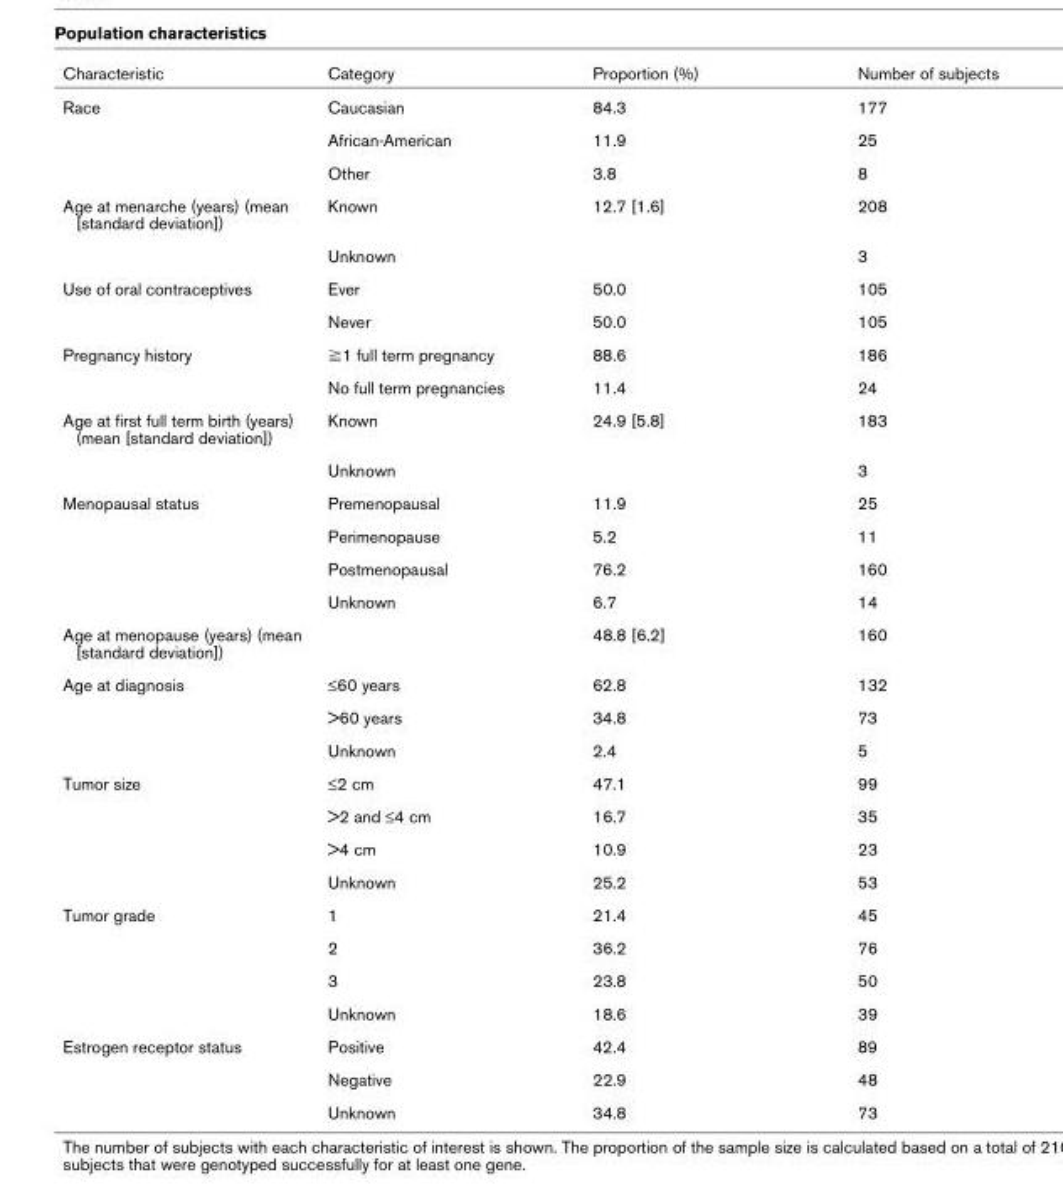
<table><thead><tr><td>Characteristic</td><td>Category</td><td>Proportion (%)</td><td>Number of subjects</td></tr></thead><tbody><tr><td rowspan="3">Race</td><td>Caucasian</td><td>84.3</td><td>177</td></tr><tr><td>African-American</td><td>11.9</td><td>25</td></tr><tr><td>Other</td><td>3.8</td><td>8</td></tr><tr><td rowspan="2">Age at menarche (years) (mean [standard deviation])</td><td>Known</td><td>12.7 [1.6]</td><td>208</td></tr><tr><td>Unknown</td><td></td><td>3</td></tr><tr><td rowspan="2">Use of oral contraceptives</td><td>Ever</td><td>50.0</td><td>105</td></tr><tr><td>Never</td><td>50.0</td><td>105</td></tr><tr><td rowspan="2">Pregnancy history</td><td>≧1 full term pregnancy</td><td>88.6</td><td>186</td></tr><tr><td>No full term pregnancies</td><td>11.4</td><td>24</td></tr><tr><td rowspan="2">Age at first full term birth (years) (mean [standard deviation])</td><td>Known</td><td>24.9 [5.8]</td><td>183</td></tr><tr><td>Unknown</td><td></td><td>3</td></tr><tr><td rowspan="4">Menopausal status</td><td>Premenopausal</td><td>11.9</td><td>25</td></tr><tr><td>Perimenopause</td><td>5.2</td><td>11</td></tr><tr><td>Postmenopausal</td><td>76.2</td><td>160</td></tr><tr><td>Unknown</td><td>6.7</td><td>14</td></tr><tr><td>Age at menopause (years) (mean [standard deviation])</td><td></td><td>48.8 [6.2]</td><td>160</td></tr><tr><td rowspan="3">Age at diagnosis</td><td>≤60 years</td><td>62.8</td><td>132</td></tr><tr><td>&gt;60 years</td><td>34.8</td><td>73</td></tr><tr><td>Unknown</td><td>2.4</td><td>5</td></tr><tr><td rowspan="4">Tumor size</td><td>≤2 cm</td><td>47.1</td><td>99</td></tr><tr><td>&gt;2 and ≤4 cm</td><td>16.7</td><td>35</td></tr><tr><td>&gt;4 cm</td><td>10.9</td><td>23</td></tr><tr><td>Unknown</td><td>25.2</td><td>53</td></tr><tr><td rowspan="4">Tumor grade</td><td>1</td><td>21.4</td><td>45</td></tr><tr><td>2</td><td>36.2</td><td>76</td></tr><tr><td>3</td><td>23.8</td><td>50</td></tr><tr><td>Unknown</td><td>18.6</td><td>39</td></tr><tr><td rowspan="3">Estrogen receptor status</td><td>Positive</td><td>42.4</td><td>89</td></tr><tr><td>Negative</td><td>22.9</td><td>48</td></tr><tr><td>Unknown</td><td>34.8</td><td>73</td></tr></tbody></table>